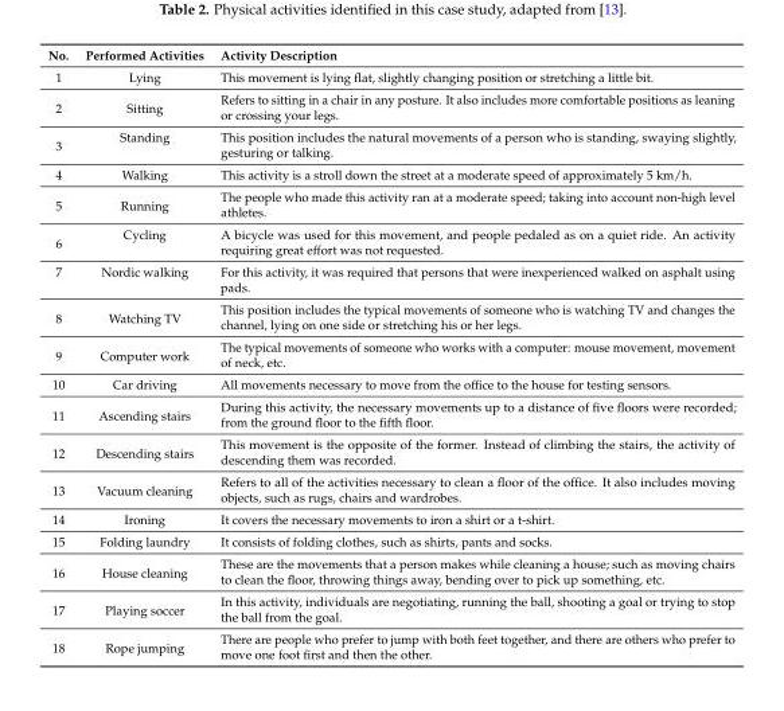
<table><thead><tr><td>No.</td><td>Performed Activities</td><td>Activity Description</td></tr></thead><tbody><tr><td>1</td><td>Lying</td><td>This movement is lying flat, slightly changing position or stretching a little bit.</td></tr><tr><td>2</td><td>Sitting</td><td>Refers to sitting in a chair in any posture. It also includes more comfortable positions as leaning or crossing your legs.</td></tr><tr><td>3</td><td>Standing</td><td>This position includes the natural movements of a person who is standing, swaying slightly, gesturing or talking.</td></tr><tr><td>4</td><td>Walking</td><td>This activity is a stroll down the street at a moderate speed of approximately 5 km/h.</td></tr><tr><td>5</td><td>Running</td><td>The people who made this activity ran at a moderate speed; taking into account non-high level athletes.</td></tr><tr><td>6</td><td>Cycling</td><td>A bicycle was used for this movement, and people pedaled as on a quiet ride. An activity requiring great effort was not requested.</td></tr><tr><td>7</td><td>Nordic walking</td><td>For this activity, it was required that persons that were inexperienced walked on asphalt using pads.</td></tr><tr><td>8</td><td>Watching TV</td><td>This position includes the typical movements of someone who is watching TV and changes the channel, lying on one side or stretching his or her legs.</td></tr><tr><td>9</td><td>Computer work</td><td>The typical movements of someone who works with a computer: mouse movement, movement of neck, etc.</td></tr><tr><td>10</td><td>Car driving</td><td>All movements necessary to move from the office to the house for testing sensors.</td></tr><tr><td>11</td><td>Ascending stairs</td><td>During this activity, the necessary movements up to a distance of five floors were recorded; from the ground floor to the fifth floor.</td></tr><tr><td>12</td><td>Descending stairs</td><td>This movement is the opposite of the former. Instead of climbing the stairs, the activity of descending them was recorded.</td></tr><tr><td>13</td><td>Vacuum cleaning</td><td>Refers to all of the activities necessary to clean a floor of the office. It also includes moving objects, such as rugs, chairs and wardrobes.</td></tr><tr><td>14</td><td>Ironing</td><td>It covers the necessary movements to iron a shirt or a t-shirt.</td></tr><tr><td>15</td><td>Folding laundry</td><td>It consists of folding clothes, such as shirts, pants and socks.</td></tr><tr><td>16</td><td>House cleaning</td><td>These are the movements that a person makes while cleaning a house; such as moving chairs to clean the floor, throwing things away, bending over to pick up something, etc.</td></tr><tr><td>17</td><td>Playing soccer</td><td>In this activity, individuals are negotiating, running the ball, shooting a goal or trying to stop the ball from the goal.</td></tr><tr><td>18</td><td>Rope jumping</td><td>There are people who prefer to jump with both feet together, and there are others who prefer to move one foot first and then the other.</td></tr></tbody></table>